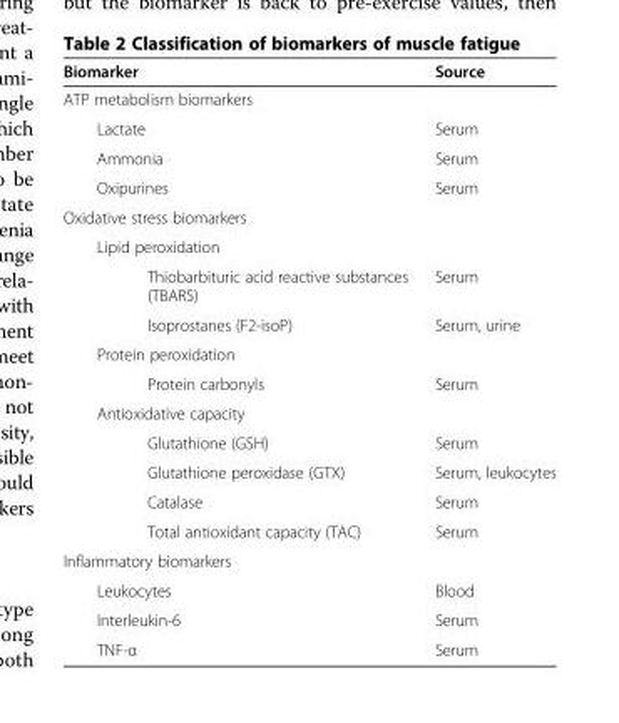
<table><thead><tr><td>Biomarker</td><td>Source</td></tr></thead><tbody><tr><td colspan="2">ATP metabolism biomarkers</td></tr><tr><td>Lactate</td><td>Serum</td></tr><tr><td>Ammonia</td><td>Serum</td></tr><tr><td>Oxipurines</td><td>Serum</td></tr><tr><td colspan="2">Oxidative stress biomarkers</td></tr><tr><td colspan="2">Lipid peroxidation</td></tr><tr><td>Thiobarbituric acid reactive substances (TBARS)</td><td>Serum</td></tr><tr><td>Isoprostanes (F2-isoP)</td><td>Serum, urine</td></tr><tr><td colspan="2">Protein peroxidation</td></tr><tr><td>Protein carbonyls</td><td>Serum</td></tr><tr><td colspan="2">Antioxidative capacity</td></tr><tr><td>Glutathione (GSH)</td><td>Serum</td></tr><tr><td>Glutathione peroxidase (GTX)</td><td>Serum, leukocytes</td></tr><tr><td>Catalase</td><td>Serum</td></tr><tr><td>Total antioxidant capacity (TAC)</td><td>Serum</td></tr><tr><td colspan="2">Inflammatory biomarkers</td></tr><tr><td>Leukocytes</td><td>Blood</td></tr><tr><td>Interleukin-6</td><td>Serum</td></tr><tr><td>TNF-α</td><td>Serum</td></tr></tbody></table>